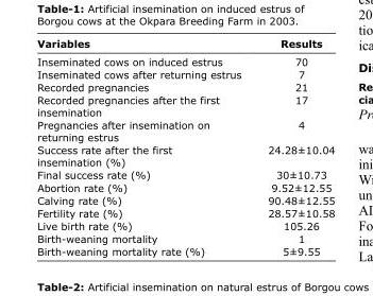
<table><thead><tr><td>Variables</td><td>Results</td></tr></thead><tbody><tr><td>Inseminated cows on induced estrus</td><td>70</td></tr><tr><td>Inseminated cows after returning estrus</td><td>7</td></tr><tr><td>Recorded pregnancies</td><td>21</td></tr><tr><td>Recorded pregnancies after the first insemination</td><td>17</td></tr><tr><td>Pregnancies after insemination on returning estrus</td><td>4</td></tr><tr><td>Success rate after the first insemination (%)</td><td>24.28±10.04</td></tr><tr><td>Final success rate (%)</td><td>30±10.73</td></tr><tr><td>Abortion rate (%)</td><td>9.52±12.55</td></tr><tr><td>Calving rate (%)</td><td>90.48±12.55</td></tr><tr><td>Fertility rate (%)</td><td>28.57±10.58</td></tr><tr><td>Live birth rate (%)</td><td>105.26</td></tr><tr><td>Birth-weaning mortality</td><td>1</td></tr><tr><td>Birth-weaning mortality rate (%)</td><td>5±9.55</td></tr></tbody></table>